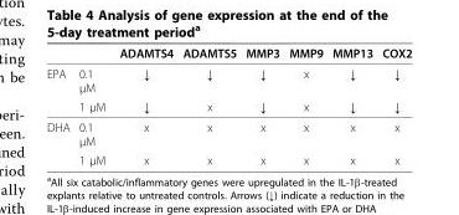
<table><thead><tr><td></td><td></td><td>ADAMTS4</td><td>ADAMTS5</td><td>MMP3</td><td>MMP9</td><td>MMP13</td><td>COX2</td></tr></thead><tbody><tr><td rowspan="2">EPA</td><td>0.1 μM</td><td>↓</td><td>↓</td><td>↓</td><td>x</td><td>↓</td><td>↓</td></tr><tr><td>1 μM</td><td>↓</td><td>x</td><td>↓</td><td>x</td><td>↓</td><td>↓</td></tr><tr><td rowspan="2">DHA</td><td>0.1 μM</td><td>x</td><td>x</td><td>x</td><td>x</td><td>x</td><td>x</td></tr><tr><td>1 μM</td><td>x</td><td>x</td><td>x</td><td>x</td><td>x</td><td>x</td></tr></tbody></table>